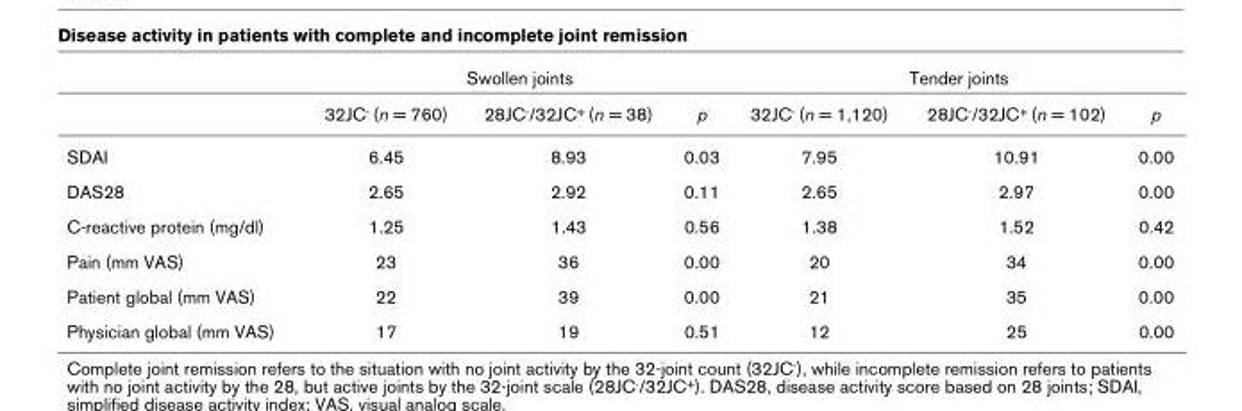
<table><thead><tr><td rowspan="2"></td><td colspan="3">Swollen joints</td><td colspan="3">Tender joints</td></tr><tr><td>32JC<sup>-</sup> (n = 760)</td><td>28JC<sup>-</sup>/32JC<sup>+</sup> (n = 38)</td><td>p</td><td>32JC<sup>-</sup> (n = 1,120)</td><td>28JC<sup>-</sup>/32JC<sup>+</sup> (n = 102)</td><td>p</td></tr></thead><tbody><tr><td>SDAI</td><td>6.45</td><td>8.93</td><td>0.03</td><td>7.95</td><td>10.91</td><td>0.00</td></tr><tr><td>DAS28</td><td>2.65</td><td>2.92</td><td>0.11</td><td>2.65</td><td>2.97</td><td>0.00</td></tr><tr><td>C-reactive protein (mg/dl)</td><td>1.25</td><td>1.43</td><td>0.56</td><td>1.38</td><td>1.52</td><td>0.42</td></tr><tr><td>Pain (mm VAS)</td><td>23</td><td>36</td><td>0.00</td><td>20</td><td>34</td><td>0.00</td></tr><tr><td>Patient global (mm VAS)</td><td>22</td><td>39</td><td>0.00</td><td>21</td><td>35</td><td>0.00</td></tr><tr><td>Physician global (mm VAS)</td><td>17</td><td>19</td><td>0.51</td><td>12</td><td>25</td><td>0.00</td></tr></tbody></table>